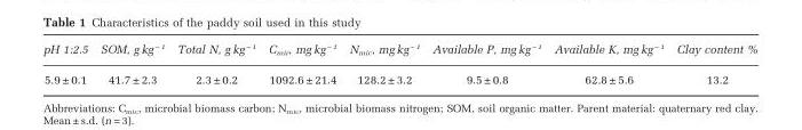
<table><thead><tr><td>pH 1:2.5</td><td>SOM, g kg <sup>− 1</sup></td><td>Total N, g kg <sup>− 1</sup></td><td>C<sub>mir</sub>, mg kg <sup>− 1</sup></td><td>N<sub>mic</sub>, mg kg <sup>− 1</sup></td><td>Available P, mg kg <sup>− 1</sup></td><td>Available K, mg kg <sup>− 1</sup></td><td>Clay content %</td></tr></thead><tbody><tr><td>5.9 ± 0.1</td><td>41.7 ± 2.3</td><td>2.3 ± 0.2</td><td>1092.6 ± 21.4</td><td>128.2 ± 3.2</td><td>9.5 ± 0.8</td><td>62.8 ± 5.6</td><td>13.2</td></tr></tbody></table>